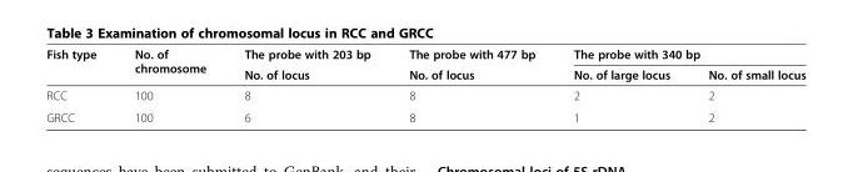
<table><thead><tr><td rowspan="2">Fish type</td><td rowspan="2">No. of chromosome</td><td rowspan="2">The probe with 203 bp No. of locus</td><td rowspan="2">The probe with 477 bp No. of locus</td><td colspan="2">The probe with 340 bp</td></tr><tr><td>No. of large locus</td><td>No. of small locus</td></tr></thead><tbody><tr><td>RCC</td><td>100</td><td>8</td><td>8</td><td>2</td><td>2</td></tr><tr><td>GRCC</td><td>100</td><td>6</td><td>8</td><td>1</td><td>2</td></tr></tbody></table>